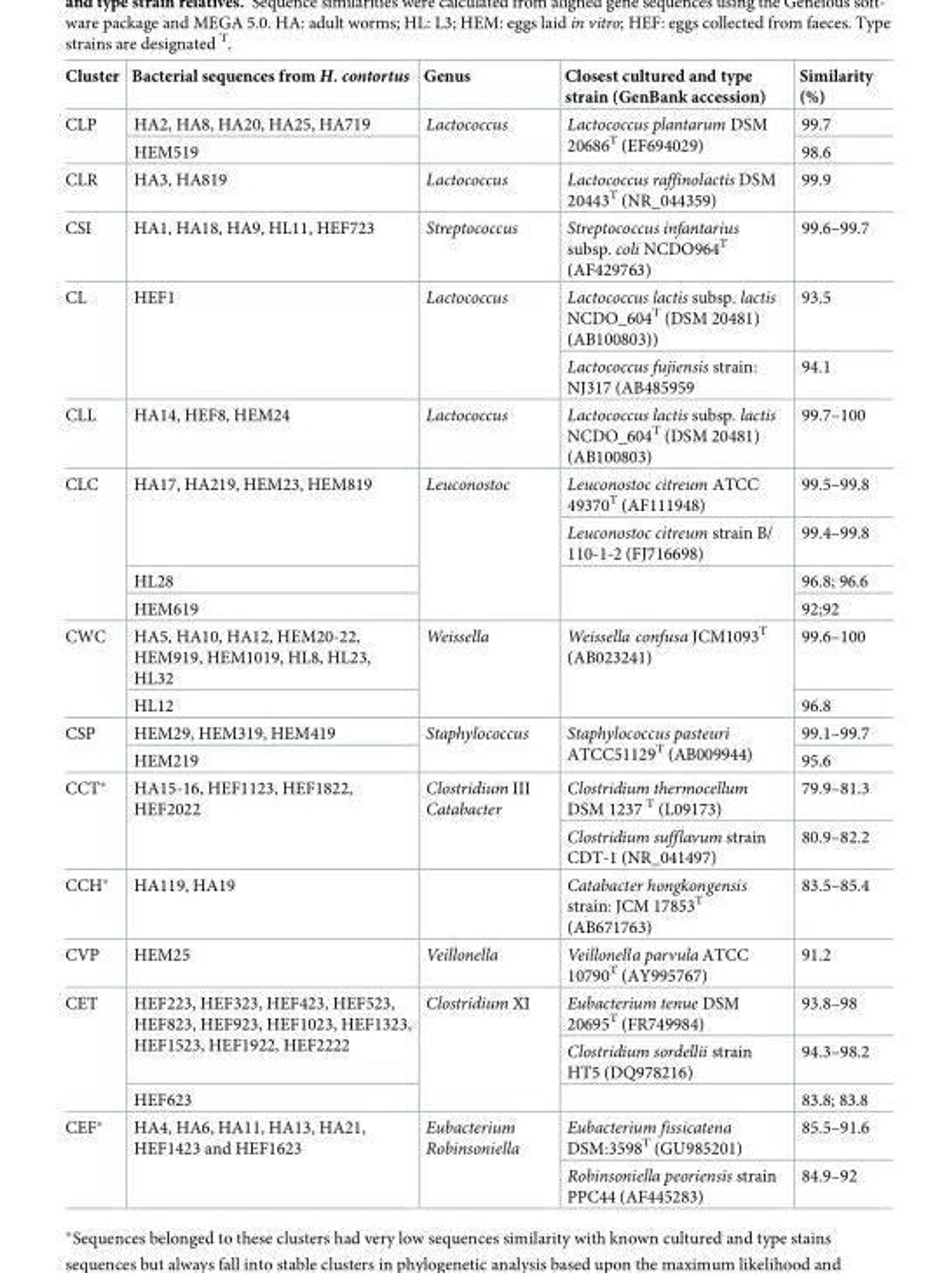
<table><thead><tr><td>Cluster</td><td>Bacterial sequences from H. contortus</td><td>Genus</td><td>Closest cultured and type strain (GenBank accession)</td><td>Similarity (%)</td></tr></thead><tbody><tr><td rowspan="2">CLP</td><td>HA2, HA8, HA20, HA25, HA719</td><td rowspan="2">Lactococcus</td><td rowspan="2">Lactococcus plantarum DSM 20686<sup>T</sup> (EF694029)</td><td>99.7</td></tr><tr><td>HEM519</td><td>98.6</td></tr><tr><td>CLR</td><td>HA3, HA819</td><td>Lactococcus</td><td>Lactococcus raffinolactis DSM 20443<sup>T</sup> (NR_044359)</td><td>99.9</td></tr><tr><td>CSI</td><td>HA1, HA18, HA9, HL11, HEF723</td><td>Streptococcus</td><td>Streptococcus infantarius subsp. coli NCDO964<sup>T</sup> (AF429763)</td><td>99.6–99.7</td></tr><tr><td rowspan="2">CL</td><td rowspan="2">HEF1</td><td rowspan="2">Lactococcus</td><td>Lactococcus lactis subsp. lactis NCDO_604<sup>T</sup> (DSM 20481) (AB100803))</td><td>93.5</td></tr><tr><td>Lactococcus fujiensis strain: NJ317 (AB485959</td><td>94.1</td></tr><tr><td>CLL</td><td>HA14, HEF8, HEM24</td><td>Lactococcus</td><td>Lactococcus lactis subsp. lactis NCDO_604<sup>T</sup> (DSM 20481) (AB100803)</td><td>99.7–100</td></tr><tr><td rowspan="4">CLC</td><td rowspan="2">HA17, HA219, HEM23, HEM819</td><td rowspan="4">Leuconostoc</td><td>Leuconostoc citreum ATCC 49370<sup>T</sup> (AF111948)</td><td>99.5–99.8</td></tr><tr><td>Leuconostoc citreum strain B/ 110-1-2 (FJ716698)</td><td>99.4–99.8</td></tr><tr><td>HL28</td><td rowspan="2"></td><td>96.8; 96.6</td></tr><tr><td>HEM619</td><td>92;92</td></tr><tr><td rowspan="2">CWC</td><td>HA5, HA10, HA12, HEM20-22, HEM919, HEM1019, HL8, HL23, HL32</td><td rowspan="2">Weissella</td><td rowspan="2">Weissella confusa JCM1093<sup>T</sup> (AB023241)</td><td>99.6–100</td></tr><tr><td>HL12</td><td>96.8</td></tr><tr><td rowspan="2">CSP</td><td>HEM29, HEM319, HEM419</td><td rowspan="2">Staphylococcus</td><td rowspan="2">Staphylococcus pasteuri ATCC51129<sup>T</sup> (AB009944)</td><td>99.1–99.7</td></tr><tr><td>HEM219</td><td>95.6</td></tr><tr><td rowspan="2">CCT*</td><td rowspan="2">HA15-16, HEF1123, HEF1822, HEF2022</td><td rowspan="2">Clostridium III Catabacter</td><td>Clostridium thermocellum DSM 1237 <sup>T</sup> (L09173)</td><td>79.9–81.3</td></tr><tr><td>Clostridium sufflavum strain CDT-1 (NR_041497)</td><td>80.9–82.2</td></tr><tr><td>CCH*</td><td>HA119, HA19</td><td></td><td>Catabacter hongkongensis strain: JCM 17853<sup>T</sup> (AB671763)</td><td>83.5–85.4</td></tr><tr><td>CVP</td><td>HEM25</td><td>Veillonella</td><td>Veillonella parvula ATCC 10790<sup>T</sup> (AY995767)</td><td>91.2</td></tr><tr><td rowspan="3">CET</td><td rowspan="2">HEF223, HEF323, HEF423, HEF523, HEF823, HEF923, HEF1023, HEF1323, HEF1523, HEF1922, HEF2222</td><td rowspan="3">Clostridium XI</td><td>Eubacterium tenue DSM 20695<sup>T</sup> (FR749984)</td><td>93.8–98</td></tr><tr><td>Clostridium sordellii strain HT5 (DQ978216)</td><td>94.3–98.2</td></tr><tr><td>HEF623</td><td></td><td>83.8; 83.8</td></tr><tr><td rowspan="2">CEF*</td><td rowspan="2">HA4, HA6, HA11, HA13, HA21, HEF1423 and HEF1623</td><td rowspan="2">Eubacterium Robinsoniella</td><td>Eubacterium fissicatena DSM:3598<sup>T</sup> (GU985201)</td><td>85.5–91.6</td></tr><tr><td>Robinsoniella peoriensis strain PPC44 (AF445283)</td><td>84.9–92</td></tr></tbody></table>